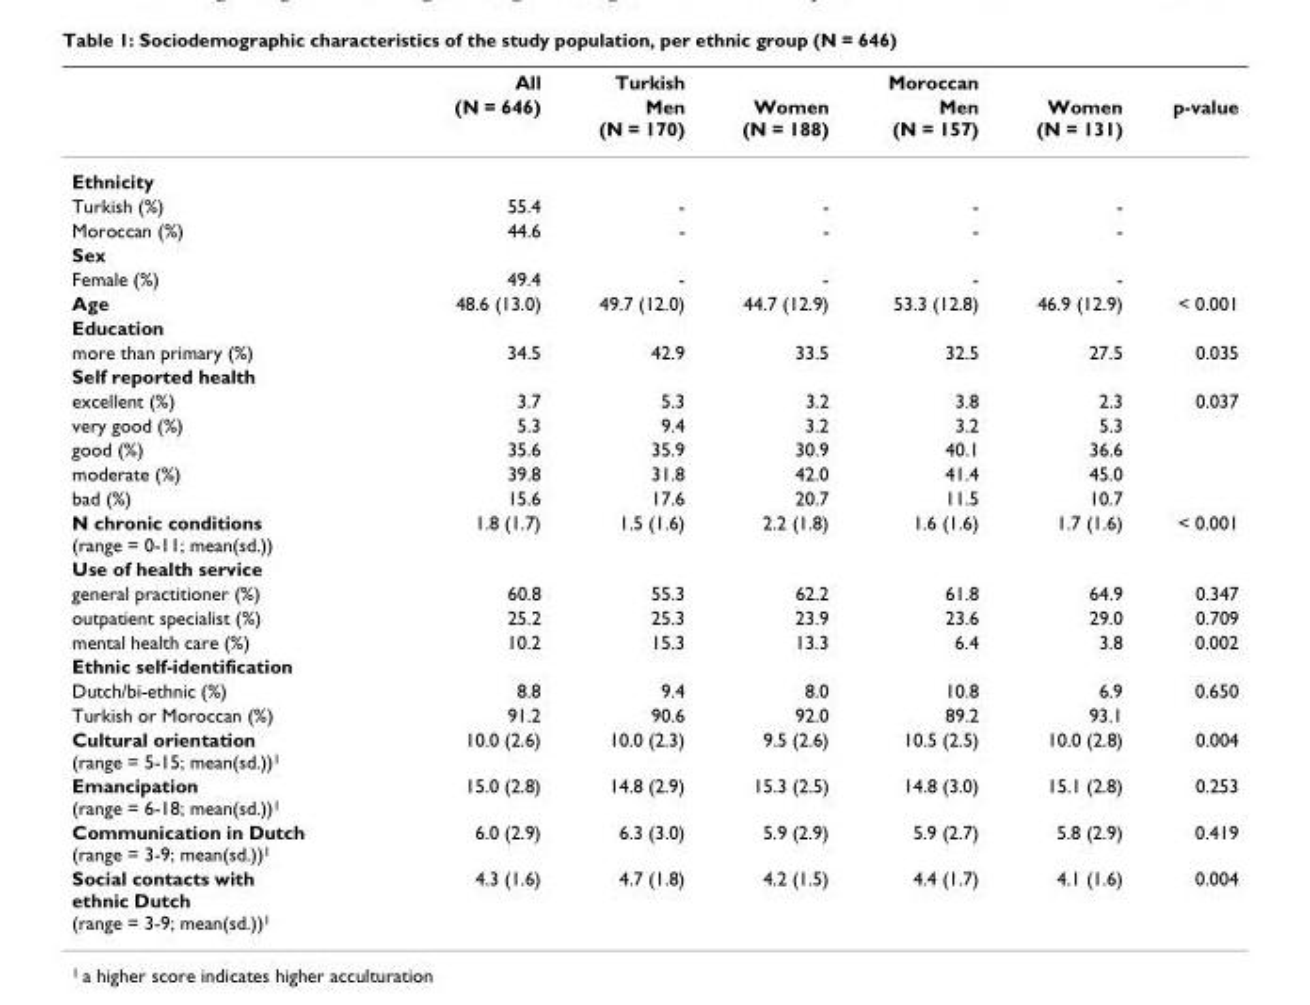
<table><thead><tr><td rowspan="2"></td><td rowspan="2">All (N = 646)</td><td rowspan="2">Turkish Men (N = 170)</td><td rowspan="2">Women (N = 188)</td><td rowspan="2">Moroccan Men (N = 157)</td><td rowspan="2">Women (N = 131)</td><td rowspan="2">p-value</td></tr><tr></tr></thead><tbody><tr><td colspan="7">Ethnicity</td></tr><tr><td>Turkish (%)</td><td>55.4</td><td>-</td><td>-</td><td>-</td><td>-</td><td></td></tr><tr><td>Moroccan (%)</td><td>44.6</td><td>-</td><td>-</td><td>-</td><td>-</td><td></td></tr><tr><td colspan="7">Sex</td></tr><tr><td>Female (%)</td><td>49.4</td><td>-</td><td>-</td><td>-</td><td>-</td><td></td></tr><tr><td>Age</td><td>48.6 (13.0)</td><td>49.7 (12.0)</td><td>44.7 (12.9)</td><td>53.3 (12.8)</td><td>46.9 (12.9)</td><td>&lt; 0.001</td></tr><tr><td colspan="7">Education</td></tr><tr><td>more than primary (%)</td><td>34.5</td><td>42.9</td><td>33.5</td><td>32.5</td><td>27.5</td><td>0.035</td></tr><tr><td colspan="7">Self reported health</td></tr><tr><td>excellent (%)</td><td>3.7</td><td>5.3</td><td>3.2</td><td>3.8</td><td>2.3</td><td>0.037</td></tr><tr><td>very good (%)</td><td>5.3</td><td>9.4</td><td>3.2</td><td>3.2</td><td>5.3</td><td></td></tr><tr><td>good (%)</td><td>35.6</td><td>35.9</td><td>30.9</td><td>40.1</td><td>36.6</td><td></td></tr><tr><td>moderate (%)</td><td>39.8</td><td>31.8</td><td>42.0</td><td>41.4</td><td>45.0</td><td></td></tr><tr><td>bad (%)</td><td>15.6</td><td>17.6</td><td>20.7</td><td>11.5</td><td>10.7</td><td></td></tr><tr><td>N chronic conditions (range = 0-11; mean(sd.))</td><td>1.8 (1.7)</td><td>1.5 (1.6)</td><td>2.2 (1.8)</td><td>1.6 (1.6)</td><td>1.7 (1.6)</td><td>&lt; 0.001</td></tr><tr><td colspan="7">Use of health service</td></tr><tr><td>general practitioner (%)</td><td>60.8</td><td>55.3</td><td>62.2</td><td>61.8</td><td>64.9</td><td>0.347</td></tr><tr><td>outpatient specialist (%)</td><td>25.2</td><td>25.3</td><td>23.9</td><td>23.6</td><td>29.0</td><td>0.709</td></tr><tr><td>mental health care (%)</td><td>10.2</td><td>15.3</td><td>13.3</td><td>6.4</td><td>3.8</td><td>0.002</td></tr><tr><td colspan="7">Ethnic self-identification</td></tr><tr><td>Dutch/bi-ethnic (%)</td><td>8.8</td><td>9.4</td><td>8.0</td><td>10.8</td><td>6.9</td><td>0.650</td></tr><tr><td>Turkish or Moroccan (%)</td><td>91.2</td><td>90.6</td><td>92.0</td><td>89.2</td><td>93.1</td><td></td></tr><tr><td>Cultural orientation (range = 5-15; mean(sd.))<sup>1</sup></td><td>10.0 (2.6)</td><td>10.0 (2.3)</td><td>9.5 (2.6)</td><td>10.5 (2.5)</td><td>10.0 (2.8)</td><td>0.004</td></tr><tr><td>Emancipation (range = 6-18; mean(sd.))<sup>1</sup></td><td>15.0 (2.8)</td><td>14.8 (2.9)</td><td>15.3 (2.5)</td><td>14.8 (3.0)</td><td>15.1 (2.8)</td><td>0.253</td></tr><tr><td>Communication in Dutch (range = 3-9; mean(sd.))<sup>1</sup></td><td>6.0 (2.9)</td><td>6.3 (3.0)</td><td>5.9 (2.9)</td><td>5.9 (2.7)</td><td>5.8 (2.9)</td><td>0.419</td></tr><tr><td>Social contacts with ethnic Dutch (range = 3-9; mean(sd.))<sup>1</sup></td><td>4.3 (1.6)</td><td>4.7 (1.8)</td><td>4.2 (1.5)</td><td>4.4 (1.7)</td><td>4.1 (1.6)</td><td>0.004</td></tr></tbody></table>